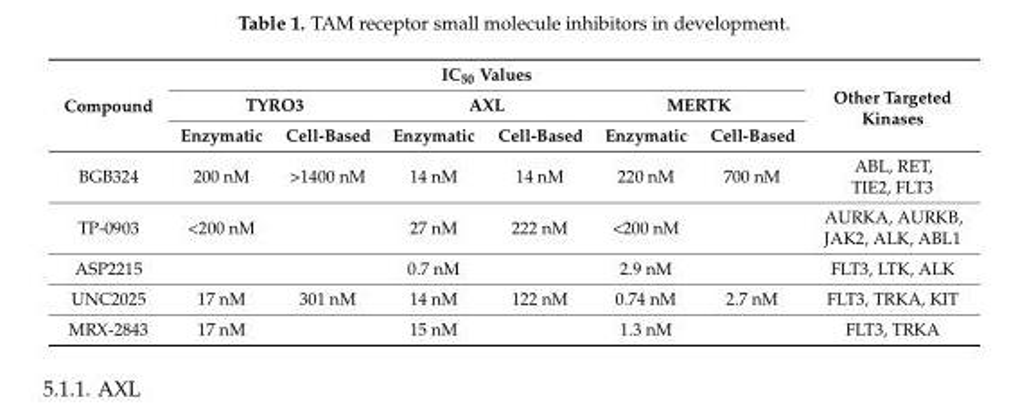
<table><thead><tr><td rowspan="3">Compound</td><td colspan="6">IC<sub>50</sub> Values</td><td rowspan="3">Other Targeted Kinases</td></tr><tr><td colspan="2">TYRO3</td><td colspan="2">AXL</td><td colspan="2">MERTK</td></tr><tr><td>Enzymatic</td><td>Cell-Based</td><td>Enzymatic</td><td>Cell-Based</td><td>Enzymatic</td><td>Cell-Based</td></tr></thead><tbody><tr><td>BGB324</td><td>200 nM</td><td>&gt;1400 nM</td><td>14 nM</td><td>14 nM</td><td>220 nM</td><td>700 nM</td><td>ABL, RET, TIE2, FLT3</td></tr><tr><td>TP-0903</td><td>&lt;200 nM</td><td></td><td>27 nM</td><td>222 nM</td><td>&lt;200 nM</td><td></td><td>AURKA, AURKB, JAK2, ALK, ABL1</td></tr><tr><td>ASP2215</td><td></td><td></td><td>0.7 nM</td><td></td><td>2.9 nM</td><td></td><td>FLT3, LTK, ALK</td></tr><tr><td>UNC2025</td><td>17 nM</td><td>301 nM</td><td>14 nM</td><td>122 nM</td><td>0.74 nM</td><td>2.7 nM</td><td>FLT3, TRKA, KIT</td></tr><tr><td>MRX-2843</td><td>17 nM</td><td></td><td>15 nM</td><td></td><td>1.3 nM</td><td></td><td>FLT3, TRKA</td></tr></tbody></table>